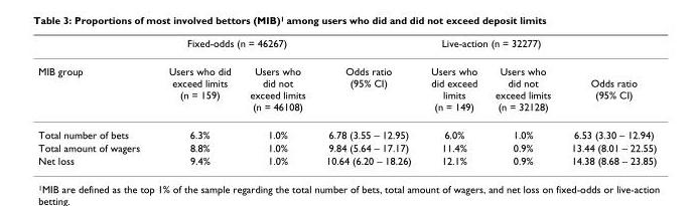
<table><thead><tr><td rowspan="2">MIB group</td><td colspan="2">Fixed-odds (n = 46267)</td><td rowspan="2">Odds ratio (95% CI)</td><td colspan="2">Live-action (n = 32277)</td><td rowspan="2">Odds ratio (95% CI)</td></tr><tr><td>Users who did exceed limits (n = 159)</td><td>Users who did not exceed limits (n = 46108)</td><td>Users who did exceed limits (n = 149)</td><td>Users who did not exceed limits (n = 32128)</td></tr></thead><tbody><tr><td>Total number of bets</td><td>6.3%</td><td>1.0%</td><td>6.78 (3.55 – 12.95)</td><td>6.0%</td><td>1.0%</td><td>6.53 (3.30 – 12.94)</td></tr><tr><td>Total amount of wagers</td><td>8.8%</td><td>1.0%</td><td>9.84 (5.64 – 17.17)</td><td>11.4%</td><td>0.9%</td><td>13.44 (8.01 – 22.55)</td></tr><tr><td>Net loss</td><td>9.4%</td><td>1.0%</td><td>10.64 (6.20 – 18.26)</td><td>12.1%</td><td>0.9%</td><td>14.38 (8.68 – 23.85)</td></tr></tbody></table>